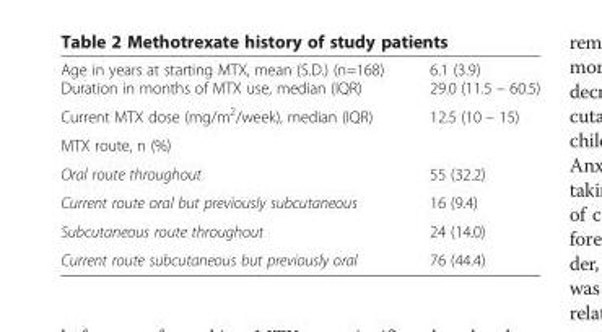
<table><thead><tr><td>Age in years at starting MTX, mean (S.D.) (n=168)</td><td>6.1 (3.9)</td></tr></thead><tbody><tr><td>Duration in months of MTX use, median (IQR)</td><td>29.0 (11.5 – 60.5)</td></tr><tr><td>Current MTX dose (mg/m<sup>2</sup>/week), median (IQR)</td><td>12.5 (10 – 15)</td></tr><tr><td colspan="2">MTX route, n (%)</td></tr><tr><td>Oral route throughout</td><td>55 (32.2)</td></tr><tr><td>Current route oral but previously subcutaneous</td><td>16 (9.4)</td></tr><tr><td>Subcutaneous route throughout</td><td>24 (14.0)</td></tr><tr><td>Current route subcutaneous but previously oral</td><td>76 (44.4)</td></tr></tbody></table>